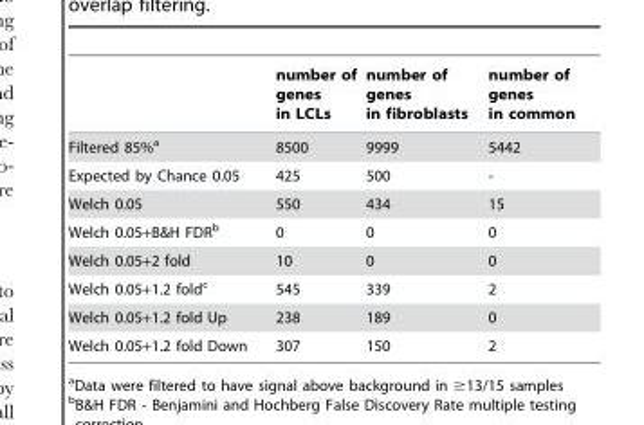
<table><thead><tr><td></td><td>number of genes in LCLs</td><td>number of genes in fibroblasts</td><td>number of genes in common</td></tr></thead><tbody><tr><td>Filtered 85%<sup>a</sup></td><td>8500</td><td>9999</td><td>5442</td></tr><tr><td>Expected by Chance 0.05</td><td>425</td><td>500</td><td>-</td></tr><tr><td>Welch 0.05</td><td>550</td><td>434</td><td>15</td></tr><tr><td>Welch 0.05+B&amp;H FDR<sup>b</sup></td><td>0</td><td>0</td><td>0</td></tr><tr><td>Welch 0.05+2 fold</td><td>10</td><td>0</td><td>0</td></tr><tr><td>Welch 0.05+1.2 fold<sup>c</sup></td><td>545</td><td>339</td><td>2</td></tr><tr><td>Welch 0.05+1.2 fold Up</td><td>238</td><td>189</td><td>0</td></tr><tr><td>Welch 0.05+1.2 fold Down</td><td>307</td><td>150</td><td>2</td></tr></tbody></table>